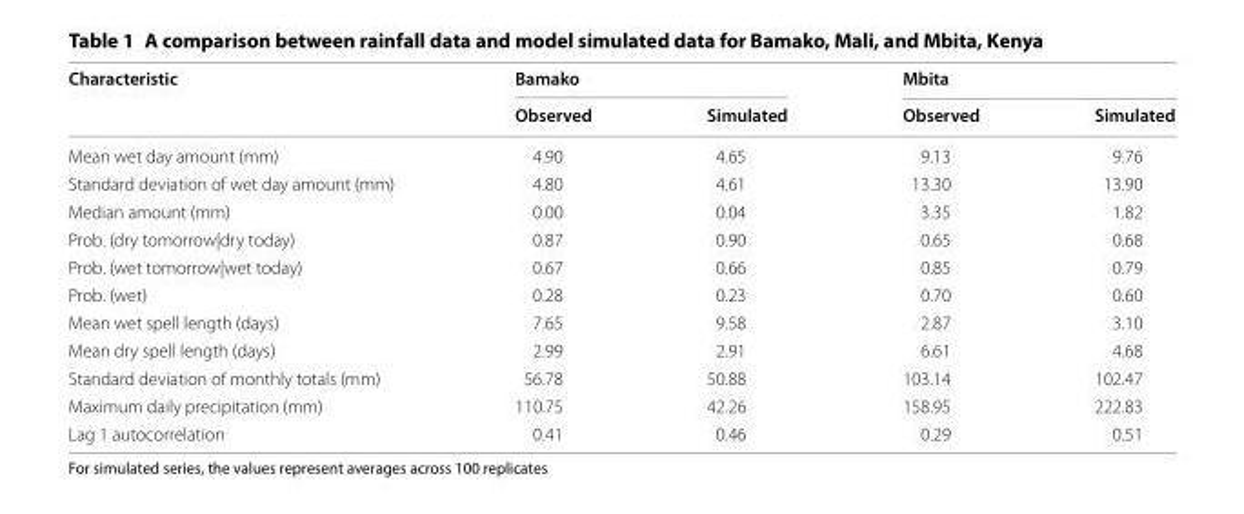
<table><thead><tr><td rowspan="2">Characteristic</td><td colspan="2">Bamako</td><td colspan="2">Mbita</td></tr><tr><td>Observed</td><td>Simulated</td><td>Observed</td><td>Simulated</td></tr></thead><tbody><tr><td>Mean wet day amount (mm)</td><td>4.90</td><td>4.65</td><td>9.13</td><td>9.76</td></tr><tr><td>Standard deviation of wet day amount (mm)</td><td>4.80</td><td>4.61</td><td>13.30</td><td>13.90</td></tr><tr><td>Median amount (mm)</td><td>0.00</td><td>0.04</td><td>3.35</td><td>1.82</td></tr><tr><td>Prob. (dry tomorrow|dry today)</td><td>0.87</td><td>0.90</td><td>0.65</td><td>0.68</td></tr><tr><td>Prob. (wet tomorrow|wet today)</td><td>0.67</td><td>0.66</td><td>0.85</td><td>0.79</td></tr><tr><td>Prob. (wet)</td><td>0.28</td><td>0.23</td><td>0.70</td><td>0.60</td></tr><tr><td>Mean wet spell length (days)</td><td>7.65</td><td>9.58</td><td>2.87</td><td>3.10</td></tr><tr><td>Mean dry spell length (days)</td><td>2.99</td><td>2.91</td><td>6.61</td><td>4.68</td></tr><tr><td>Standard deviation of monthly totals (mm)</td><td>56.78</td><td>50.88</td><td>103.14</td><td>102.47</td></tr><tr><td>Maximum daily precipitation (mm)</td><td>110.75</td><td>42.26</td><td>158.95</td><td>222.83</td></tr><tr><td>Lag 1 autocorrelation</td><td>0.41</td><td>0.46</td><td>0.29</td><td>0.51</td></tr></tbody></table>